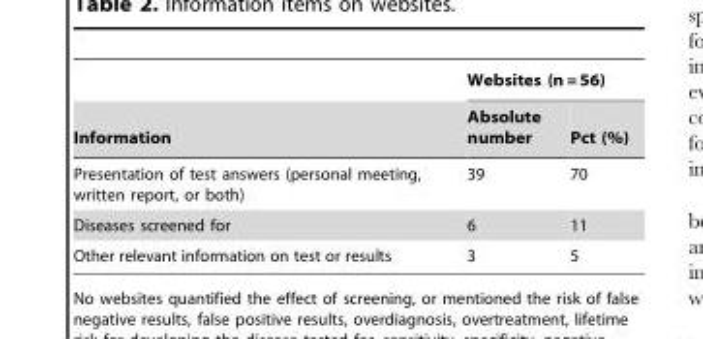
<table><thead><tr><td rowspan="2">Information</td><td colspan="2">Websites (n = 56)</td></tr><tr><td>Absolute number</td><td>Pct (%)</td></tr></thead><tbody><tr><td>Presentation of test answers (personal meeting, written report, or both)</td><td>39</td><td>70</td></tr><tr><td>Diseases screened for</td><td>6</td><td>11</td></tr><tr><td>Other relevant information on test or results</td><td>3</td><td>5</td></tr></tbody></table>